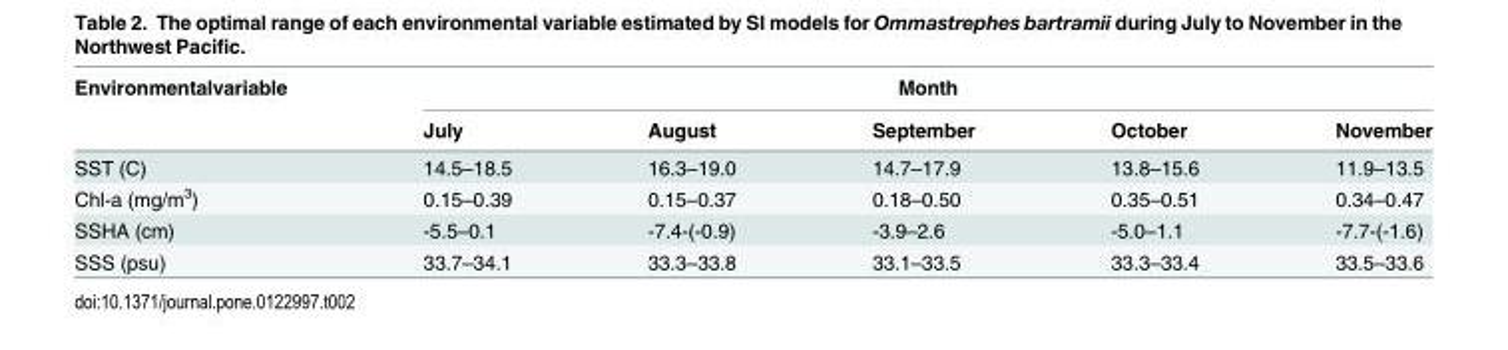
<table><thead><tr><td rowspan="2">Environmentalvariable</td><td colspan="5">Month</td></tr><tr><td>July</td><td>August</td><td>September</td><td>October</td><td>November</td></tr></thead><tbody><tr><td>SST (C)</td><td>14.5–18.5</td><td>16.3–19.0</td><td>14.7–17.9</td><td>13.8–15.6</td><td>11.9–13.5</td></tr><tr><td>Chl-a (mg/m<sup>3</sup>)</td><td>0.15–0.39</td><td>0.15–0.37</td><td>0.18–0.50</td><td>0.35–0.51</td><td>0.34–0.47</td></tr><tr><td>SSHA (cm)</td><td>-5.5–0.1</td><td>-7.4-(-0.9)</td><td>-3.9–2.6</td><td>-5.0–1.1</td><td>-7.7-(-1.6)</td></tr><tr><td>SSS (psu)</td><td>33.7–34.1</td><td>33.3–33.8</td><td>33.1–33.5</td><td>33.3–33.4</td><td>33.5–33.6</td></tr></tbody></table>